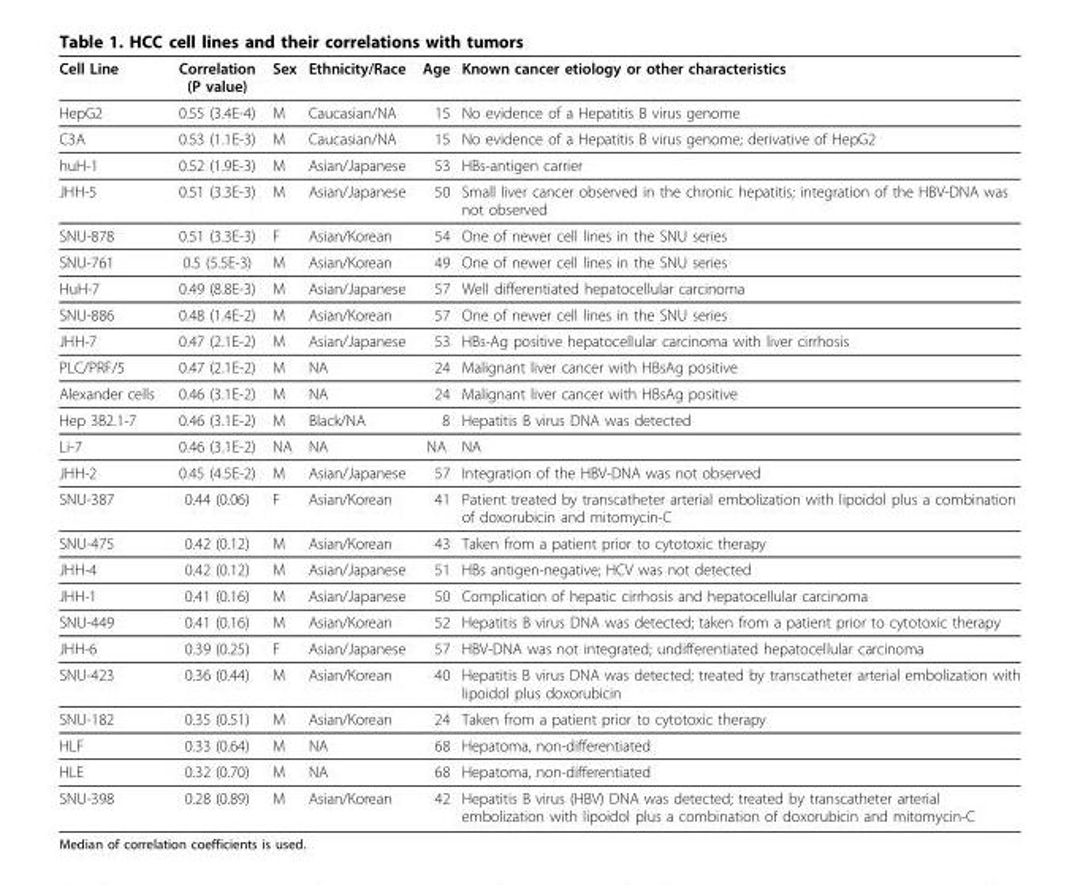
<table><thead><tr><td>Cell Line</td><td>Correlation (P value)</td><td>Sex</td><td>Ethnicity/Race</td><td>Age</td><td>Known cancer etiology or other characteristics</td></tr></thead><tbody><tr><td>HepG2</td><td>0.55 (3.4E-4)</td><td>M</td><td>Caucasian/NA</td><td>15</td><td>No evidence of a Hepatitis B virus genome</td></tr><tr><td>C3A</td><td>0.53 (1.1E-3)</td><td>M</td><td>Caucasian/NA</td><td>15</td><td>No evidence of a Hepatitis B virus genome; derivative of HepG2</td></tr><tr><td>huH-1</td><td>0.52 (1.9E-3)</td><td>M</td><td>Asian/Japanese</td><td>53</td><td>HBs-antigen carrier</td></tr><tr><td>JHH-5</td><td>0.51 (3.3E-3)</td><td>M</td><td>Asian/Japanese</td><td>50</td><td>Small liver cancer observed in the chronic hepatitis; integration of the HBV-DNA was not observed</td></tr><tr><td>SNU-878</td><td>0.51 (3.3E-3)</td><td>F</td><td>Asian/Korean</td><td>54</td><td>One of newer cell lines in the SNU series</td></tr><tr><td>SNU-761</td><td>0.5 (5.5E-3)</td><td>M</td><td>Asian/Korean</td><td>49</td><td>One of newer cell lines in the SNU series</td></tr><tr><td>HuH-7</td><td>0.49 (8.8E-3)</td><td>M</td><td>Asian/Japanese</td><td>57</td><td>Well differentiated hepatocellular carcinoma</td></tr><tr><td>SNU-886</td><td>0.48 (1.4E-2)</td><td>M</td><td>Asian/Korean</td><td>57</td><td>One of newer cell lines in the SNU series</td></tr><tr><td>JHH-7</td><td>0.47 (2.1E-2)</td><td>M</td><td>Asian/Japanese</td><td>53</td><td>HBs-Ag positive hepatocellular carcinoma with liver cirrhosis</td></tr><tr><td>PLC/PRF/5</td><td>0.47 (2.1E-2)</td><td>M</td><td>NA</td><td>24</td><td>Malignant liver cancer with HBsAg positive</td></tr><tr><td>Alexander cells</td><td>0.46 (3.1E-2)</td><td>M</td><td>NA</td><td>24</td><td>Malignant liver cancer with HBsAg positive</td></tr><tr><td>Hep 3B2.1-7</td><td>0.46 (3.1E-2)</td><td>M</td><td>Black/NA</td><td>8</td><td>Hepatitis B virus DNA was detected</td></tr><tr><td>Li-7</td><td>0.46 (3.1E-2)</td><td>NA</td><td>NA</td><td>NA</td><td>NA</td></tr><tr><td>JHH-2</td><td>0.45 (4.5E-2)</td><td>M</td><td>Asian/Japanese</td><td>57</td><td>Integration of the HBV-DNA was not observed</td></tr><tr><td>SNU-387</td><td>0.44 (0.06)</td><td>F</td><td>Asian/Korean</td><td>41</td><td>Patient treated by transcatheter arterial embolization with lipoidol plus a combination of doxorubicin and mitomycin-C</td></tr><tr><td>SNU-475</td><td>0.42 (0.12)</td><td>M</td><td>Asian/Korean</td><td>43</td><td>Taken from a patient prior to cytotoxic therapy</td></tr><tr><td>JHH-4</td><td>0.42 (0.12)</td><td>M</td><td>Asian/Japanese</td><td>51</td><td>HBs antigen-negative; HCV was not detected</td></tr><tr><td>JHH-1</td><td>0.41 (0.16)</td><td>M</td><td>Asian/Japanese</td><td>50</td><td>Complication of hepatic cirrhosis and hepatocellular carcinoma</td></tr><tr><td>SNU-449</td><td>0.41 (0.16)</td><td>M</td><td>Asian/Korean</td><td>52</td><td>Hepatitis B virus DNA was detected; taken from a patient prior to cytotoxic therapy</td></tr><tr><td>JHH-6</td><td>0.39 (0.25)</td><td>F</td><td>Asian/Japanese</td><td>57</td><td>HBV-DNA was not integrated; undifferentiated hepatocellular carcinoma</td></tr><tr><td>SNU-423</td><td>0.36 (0.44)</td><td>M</td><td>Asian/Korean</td><td>40</td><td>Hepatitis B virus DNA was detected; treated by transcatheter arterial embolization with lipoidol plus doxorubicin</td></tr><tr><td>SNU-182</td><td>0.35 (0.51)</td><td>M</td><td>Asian/Korean</td><td>24</td><td>Taken from a patient prior to cytotoxic therapy</td></tr><tr><td>HLF</td><td>0.33 (0.64)</td><td>M</td><td>NA</td><td>68</td><td>Hepatoma, non-differentiated</td></tr><tr><td>HLE</td><td>0.32 (0.70)</td><td>M</td><td>NA</td><td>68</td><td>Hepatoma, non-differentiated</td></tr><tr><td>SNU-398</td><td>0.28 (0.89)</td><td>M</td><td>Asian/Korean</td><td>42</td><td>Hepatitis B virus (HBV) DNA was detected; treated by transcatheter arterial embolization with lipoidol plus a combination of doxorubicin and mitomycin-C</td></tr></tbody></table>